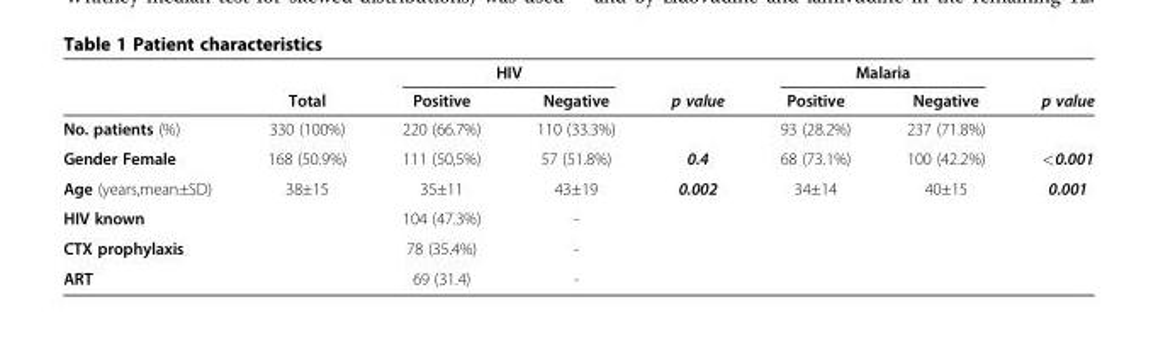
<table><thead><tr><td rowspan="2"></td><td rowspan="2">Total</td><td colspan="2">HIV</td><td rowspan="2">p value</td><td colspan="2">Malaria</td><td rowspan="2">p value</td></tr><tr><td>Positive</td><td>Negative</td><td>Positive</td><td>Negative</td></tr></thead><tbody><tr><td>No. patients (%)</td><td>330 (100%)</td><td>220 (66.7%)</td><td>110 (33.3%)</td><td></td><td>93 (28.2%)</td><td>237 (71.8%)</td><td></td></tr><tr><td>Gender Female</td><td>168 (50.9%)</td><td>111 (50,5%)</td><td>57 (51.8%)</td><td>0.4</td><td>68 (73.1%)</td><td>100 (42.2%)</td><td>&lt;0.001</td></tr><tr><td>Age (years,mean±SD)</td><td>38±15</td><td>35±11</td><td>43±19</td><td>0.002</td><td>34±14</td><td>40±15</td><td>0.001</td></tr><tr><td>HIV known</td><td></td><td>104 (47.3%)</td><td>-</td><td></td><td></td><td></td><td></td></tr><tr><td>CTX prophylaxis</td><td></td><td>78 (35.4%)</td><td>-</td><td></td><td></td><td></td><td></td></tr><tr><td>ART</td><td></td><td>69 (31.4)</td><td>-</td><td></td><td></td><td></td><td></td></tr></tbody></table>